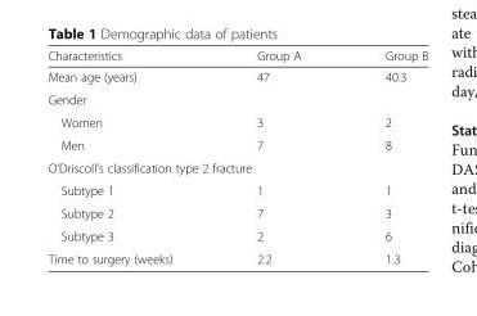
<table><thead><tr><td>Characteristics</td><td>Group A</td><td>Group B</td></tr></thead><tbody><tr><td>Mean age (years)</td><td>47</td><td>40.3</td></tr><tr><td colspan="3">Gender</td></tr><tr><td>Women</td><td>3</td><td>2</td></tr><tr><td>Men</td><td>7</td><td>8</td></tr><tr><td colspan="3">O’Driscoll’s classification type 2 fracture</td></tr><tr><td>Subtype 1</td><td>1</td><td>1</td></tr><tr><td>Subtype 2</td><td>7</td><td>3</td></tr><tr><td>Subtype 3</td><td>2</td><td>6</td></tr><tr><td>Time to surgery (weeks)</td><td>2.2</td><td>1.3</td></tr></tbody></table>